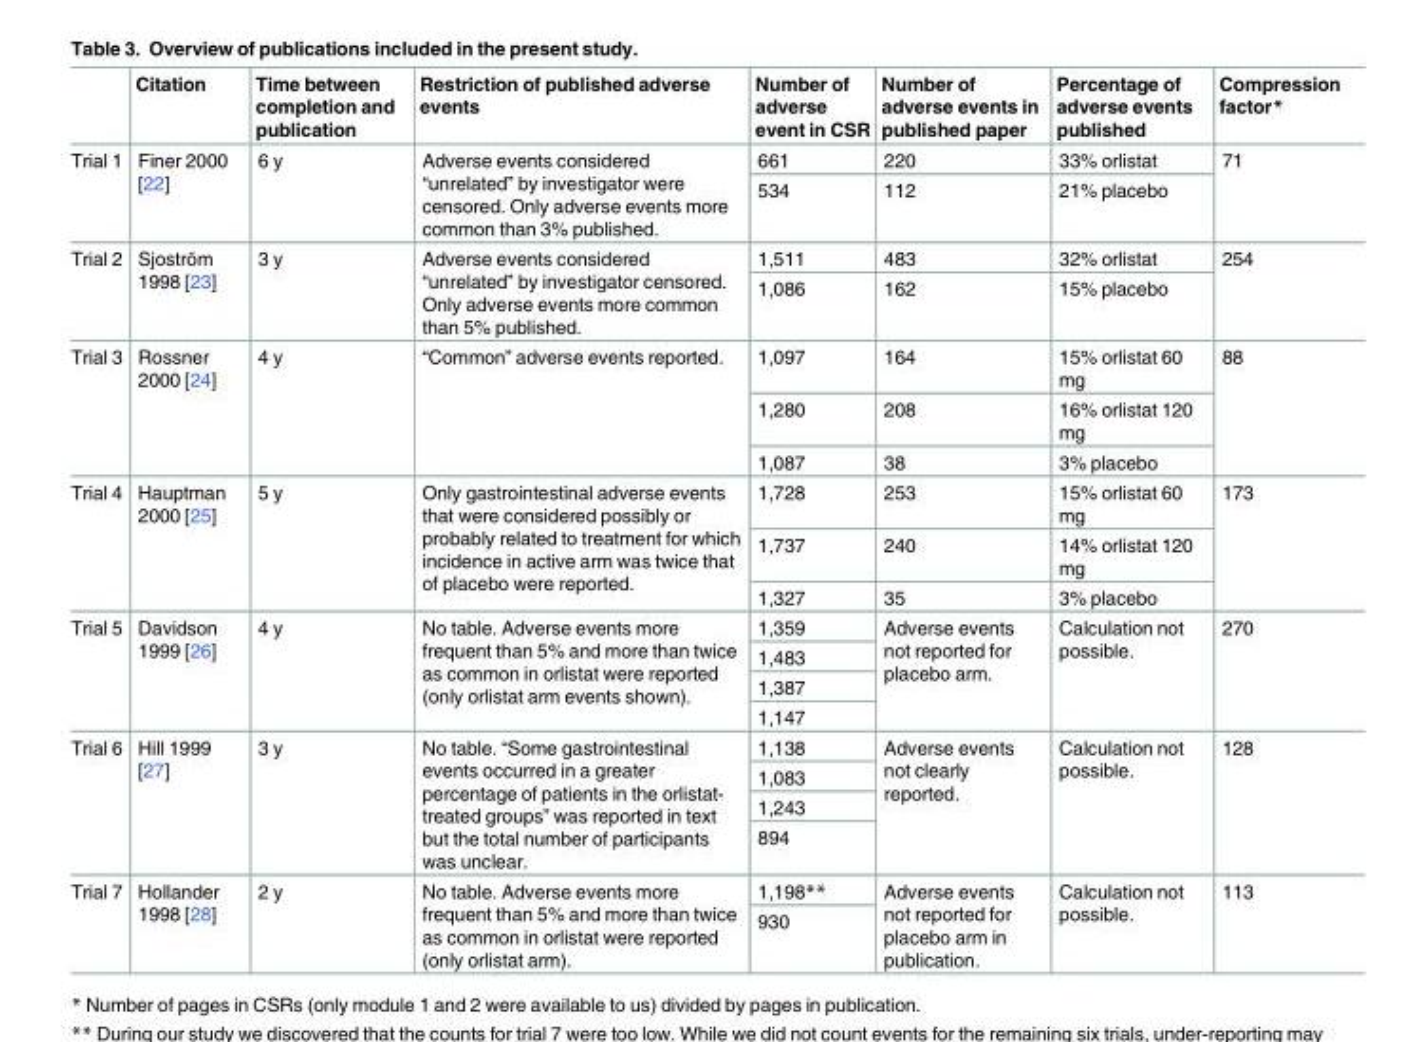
<table><thead><tr><td></td><td>Citation</td><td>Time between completion and publication</td><td>Restriction of published adverse events</td><td>Number of adverse event in CSR</td><td>Number of adverse events in published paper</td><td>Percentage of adverse events published</td><td>Compression factor*</td></tr></thead><tbody><tr><td rowspan="2">Trial 1</td><td rowspan="2">Finer 2000 [22]</td><td rowspan="2">6 y</td><td rowspan="2">Adverse events considered “unrelated” by investigator were censored. Only adverse events more common than 3% published.</td><td>661</td><td>220</td><td>33% orlistat</td><td rowspan="2">71</td></tr><tr><td>534</td><td>112</td><td>21% placebo</td></tr><tr><td rowspan="2">Trial 2</td><td rowspan="2">Sjoström 1998 [23]</td><td rowspan="2">3 y</td><td rowspan="2">Adverse events considered “unrelated” by investigator censored. Only adverse events more common than 5% published.</td><td>1,511</td><td>483</td><td>32% orlistat</td><td rowspan="2">254</td></tr><tr><td>1,086</td><td>162</td><td>15% placebo</td></tr><tr><td rowspan="3">Trial 3</td><td rowspan="3">Rossner 2000 [24]</td><td rowspan="3">4 y</td><td rowspan="3">“Common” adverse events reported.</td><td>1,097</td><td>164</td><td>15% orlistat 60 mg</td><td rowspan="3">88</td></tr><tr><td>1,280</td><td>208</td><td>16% orlistat 120 mg</td></tr><tr><td>1,087</td><td>38</td><td>3% placebo</td></tr><tr><td rowspan="3">Trial 4</td><td rowspan="3">Hauptman 2000 [25]</td><td rowspan="3">5 y</td><td rowspan="3">Only gastrointestinal adverse events that were considered possibly or probably related to treatment for which incidence in active arm was twice that of placebo were reported.</td><td>1,728</td><td>253</td><td>15% orlistat 60 mg</td><td rowspan="3">173</td></tr><tr><td>1,737</td><td>240</td><td>14% orlistat 120 mg</td></tr><tr><td>1,327</td><td>35</td><td>3% placebo</td></tr><tr><td rowspan="4">Trial 5</td><td rowspan="4">Davidson 1999 [26]</td><td rowspan="4">4 y</td><td rowspan="4">No table. Adverse events more frequent than 5% and more than twice as common in orlistat were reported (only orlistat arm events shown).</td><td>1,359</td><td rowspan="4">Adverse events not reported for placebo arm.</td><td rowspan="4">Calculation not possible.</td><td rowspan="4">270</td></tr><tr><td>1,483</td></tr><tr><td>1,387</td></tr><tr><td>1,147</td></tr><tr><td rowspan="4">Trial 6</td><td rowspan="4">Hill 1999 [27]</td><td rowspan="4">3 y</td><td rowspan="4">No table. “Some gastrointestinal events occurred in a greater percentage of patients in the orlistat- treated groups” was reported in text but the total number of participants was unclear.</td><td>1,138</td><td rowspan="4">Adverse events not clearly reported.</td><td rowspan="4">Calculation not possible.</td><td rowspan="4">128</td></tr><tr><td>1,083</td></tr><tr><td>1,243</td></tr><tr><td>894</td></tr><tr><td rowspan="2">Trial 7</td><td rowspan="2">Hollander 1998 [28]</td><td rowspan="2">2 y</td><td rowspan="2">No table. Adverse events more frequent than 5% and more than twice as common in orlistat were reported (only orlistat arm).</td><td>1,198**</td><td rowspan="2">Adverse events not reported for placebo arm in publication.</td><td rowspan="2">Calculation not possible.</td><td rowspan="2">113</td></tr><tr><td>930</td></tr></tbody></table>